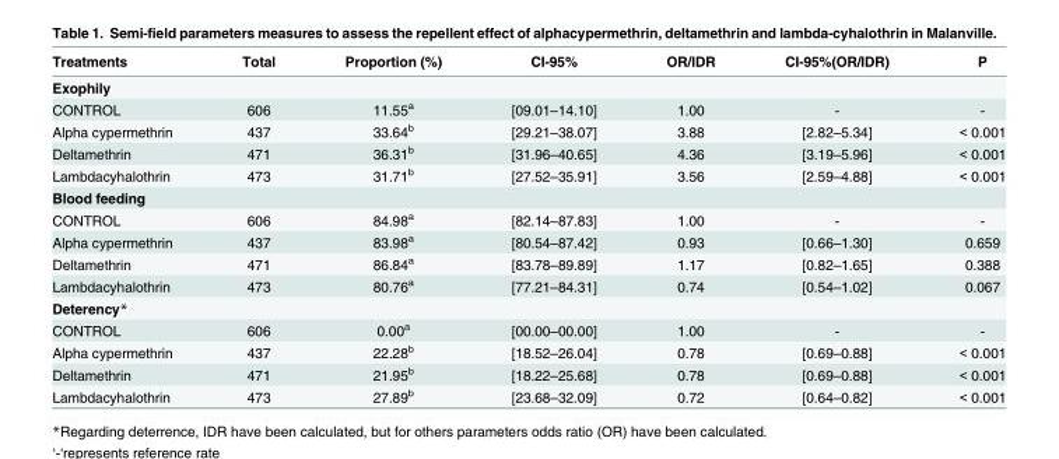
<table><thead><tr><td>Treatments</td><td>Total</td><td>Proportion (%)</td><td>CI-95%</td><td>OR/IDR</td><td>CI-95%(OR/IDR)</td><td>P</td></tr></thead><tbody><tr><td colspan="7">Exophily</td></tr><tr><td>CONTROL</td><td>606</td><td>11.55<sup>a</sup></td><td>[09.01–14.10]</td><td>1.00</td><td>-</td><td>-</td></tr><tr><td>Alpha cypermethrin</td><td>437</td><td>33.64<sup>b</sup></td><td>[29.21–38.07]</td><td>3.88</td><td>[2.82–5.34]</td><td>&lt; 0.001</td></tr><tr><td>Deltamethrin</td><td>471</td><td>36.31<sup>b</sup></td><td>[31.96–40.65]</td><td>4.36</td><td>[3.19–5.96]</td><td>&lt; 0.001</td></tr><tr><td>Lambdacyhalothrin</td><td>473</td><td>31.71<sup>b</sup></td><td>[27.52–35.91]</td><td>3.56</td><td>[2.59–4.88]</td><td>&lt; 0.001</td></tr><tr><td colspan="7">Blood feeding</td></tr><tr><td>CONTROL</td><td>606</td><td>84.98<sup>a</sup></td><td>[82.14–87.83]</td><td>1.00</td><td>-</td><td>-</td></tr><tr><td>Alpha cypermethrin</td><td>437</td><td>83.98<sup>a</sup></td><td>[80.54–87.42]</td><td>0.93</td><td>[0.66–1.30]</td><td>0.659</td></tr><tr><td>Deltamethrin</td><td>471</td><td>86.84<sup>a</sup></td><td>[83.78–89.89]</td><td>1.17</td><td>[0.82–1.65]</td><td>0.388</td></tr><tr><td>Lambdacyhalothrin</td><td>473</td><td>80.76<sup>a</sup></td><td>[77.21–84.31]</td><td>0.74</td><td>[0.54–1.02]</td><td>0.067</td></tr><tr><td colspan="7">Deterency*</td></tr><tr><td>CONTROL</td><td>606</td><td>0.00<sup>a</sup></td><td>[00.00–00.00]</td><td>1.00</td><td>-</td><td>-</td></tr><tr><td>Alpha cypermethrin</td><td>437</td><td>22.28<sup>b</sup></td><td>[18.52–26.04]</td><td>0.78</td><td>[0.69–0.88]</td><td>&lt; 0.001</td></tr><tr><td>Deltamethrin</td><td>471</td><td>21.95<sup>b</sup></td><td>[18.22–25.68]</td><td>0.78</td><td>[0.69–0.88]</td><td>&lt; 0.001</td></tr><tr><td>Lambdacyhalothrin</td><td>473</td><td>27.89<sup>b</sup></td><td>[23.68–32.09]</td><td>0.72</td><td>[0.64–0.82]</td><td>&lt; 0.001</td></tr></tbody></table>